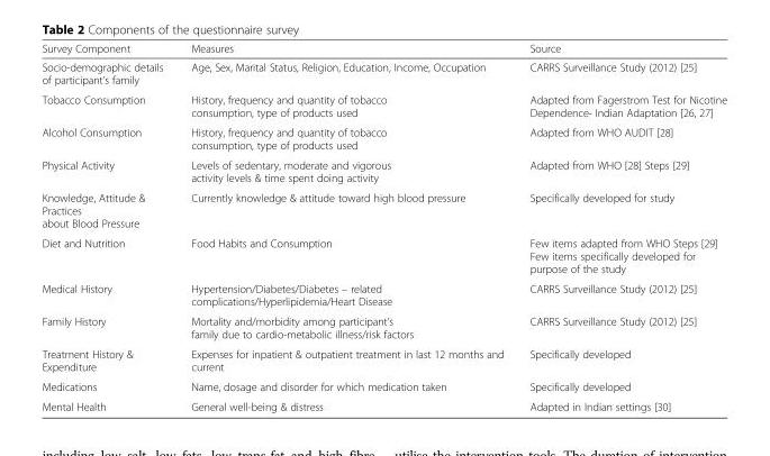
<table><thead><tr><td>Survey Component</td><td>Measures</td><td>Source</td></tr></thead><tbody><tr><td>Socio-demographic details of participant’s family</td><td>Age, Sex, Marital Status, Religion, Education, Income, Occupation</td><td>CARRS Surveillance Study (2012) [25]</td></tr><tr><td>Tobacco Consumption</td><td>History, frequency and quantity of tobacco consumption, type of products used</td><td>Adapted from Fagerstrom Test for Nicotine Dependence- Indian Adaptation [26, 27]</td></tr><tr><td>Alcohol Consumption</td><td>History, frequency and quantity of tobacco consumption, type of products used</td><td>Adapted from WHO AUDIT [28]</td></tr><tr><td>Physical Activity</td><td>Levels of sedentary, moderate and vigorous activity levels &amp; time spent doing activity</td><td>Adapted from WHO [28] Steps [29]</td></tr><tr><td>Knowledge, Attitude &amp; Practices about Blood Pressure</td><td>Currently knowledge &amp; attitude toward high blood pressure</td><td>Specifically developed for study</td></tr><tr><td>Diet and Nutrition</td><td>Food Habits and Consumption</td><td>Few items adapted from WHO Steps [29] Few items specifically developed for purpose of the study</td></tr><tr><td>Medical History</td><td>Hypertension/Diabetes/Diabetes – related complications/Hyperlipidemia/Heart Disease</td><td>CARRS Surveillance Study (2012) [25]</td></tr><tr><td>Family History</td><td>Mortality and/morbidity among participant’s family due to cardio-metabolic illness/risk factors</td><td>CARRS Surveillance Study (2012) [25]</td></tr><tr><td>Treatment History &amp; Expenditure</td><td>Expenses for inpatient &amp; outpatient treatment in last 12 months and current</td><td>Specifically developed</td></tr><tr><td>Medications</td><td>Name, dosage and disorder for which medication taken</td><td>Specifically developed</td></tr><tr><td>Mental Health</td><td>General well-being &amp; distress</td><td>Adapted in Indian settings [30]</td></tr></tbody></table>